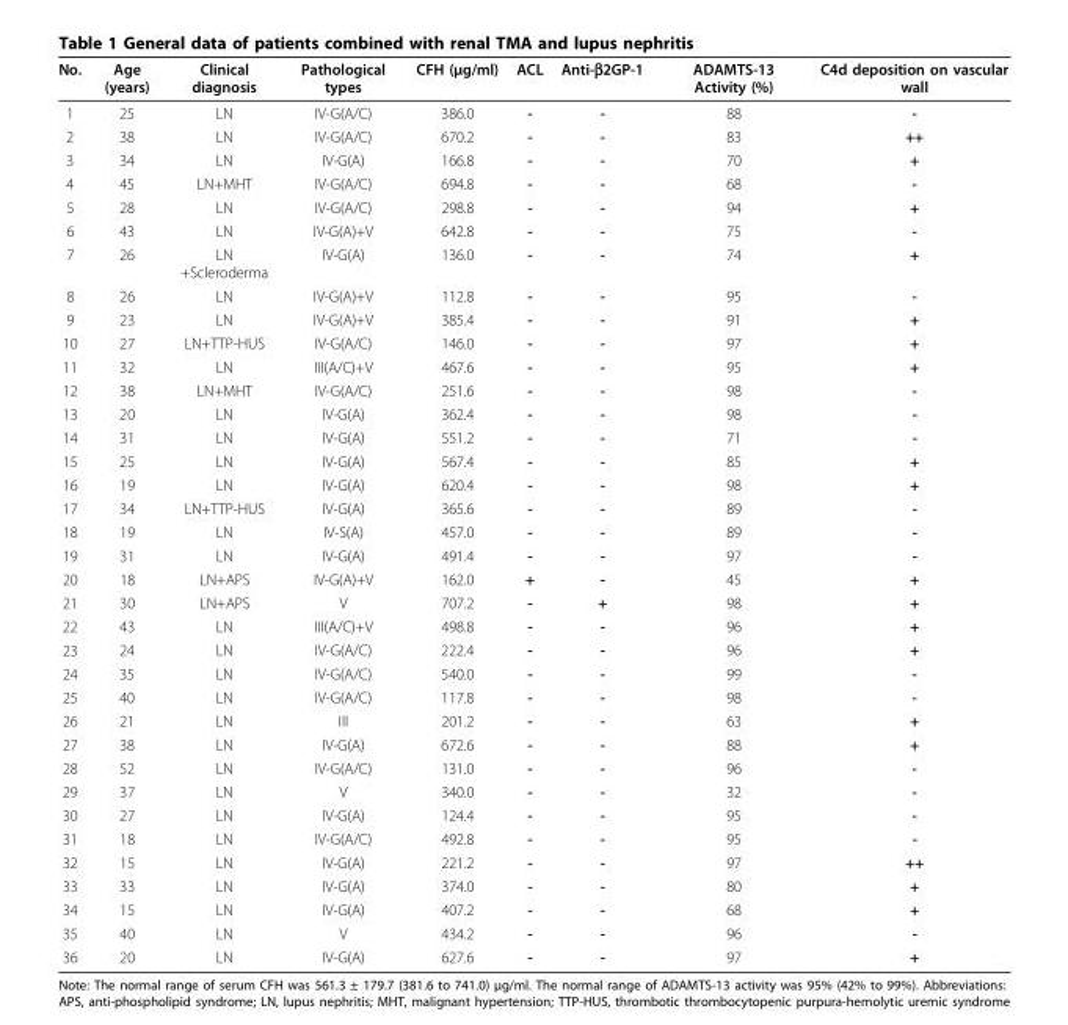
<table><thead><tr><td>No.</td><td>Age (years)</td><td>Clinical diagnosis</td><td>Pathological types</td><td>CFH (μg/ml)</td><td>ACL</td><td>Anti-β2GP-1</td><td>ADAMTS-13 Activity (%)</td><td>C4d deposition on vascular wall</td></tr></thead><tbody><tr><td>1</td><td>25</td><td>LN</td><td>IV-G(A/C)</td><td>386.0</td><td>-</td><td>-</td><td>88</td><td>-</td></tr><tr><td>2</td><td>38</td><td>LN</td><td>IV-G(A/C)</td><td>670.2</td><td>-</td><td>-</td><td>83</td><td>++</td></tr><tr><td>3</td><td>34</td><td>LN</td><td>IV-G(A)</td><td>166.8</td><td>-</td><td>-</td><td>70</td><td>+</td></tr><tr><td>4</td><td>45</td><td>LN+MHT</td><td>IV-G(A/C)</td><td>694.8</td><td>-</td><td>-</td><td>68</td><td>-</td></tr><tr><td>5</td><td>28</td><td>LN</td><td>IV-G(A/C)</td><td>298.8</td><td>-</td><td>-</td><td>94</td><td>+</td></tr><tr><td>6</td><td>43</td><td>LN</td><td>IV-G(A)+V</td><td>642.8</td><td>-</td><td>-</td><td>75</td><td>-</td></tr><tr><td>7</td><td>26</td><td>LN +Scleroderma</td><td>IV-G(A)</td><td>136.0</td><td>-</td><td>-</td><td>74</td><td>+</td></tr><tr><td>8</td><td>26</td><td>LN</td><td>IV-G(A)+V</td><td>112.8</td><td>-</td><td>-</td><td>95</td><td>-</td></tr><tr><td>9</td><td>23</td><td>LN</td><td>IV-G(A)+V</td><td>385.4</td><td>-</td><td>-</td><td>91</td><td>+</td></tr><tr><td>10</td><td>27</td><td>LN+TTP-HUS</td><td>IV-G(A/C)</td><td>146.0</td><td>-</td><td>-</td><td>97</td><td>+</td></tr><tr><td>11</td><td>32</td><td>LN</td><td>III(A/C)+V</td><td>467.6</td><td>-</td><td>-</td><td>95</td><td>+</td></tr><tr><td>12</td><td>38</td><td>LN+MHT</td><td>IV-G(A/C)</td><td>251.6</td><td>-</td><td>-</td><td>98</td><td>-</td></tr><tr><td>13</td><td>20</td><td>LN</td><td>IV-G(A)</td><td>362.4</td><td>-</td><td>-</td><td>98</td><td>-</td></tr><tr><td>14</td><td>31</td><td>LN</td><td>IV-G(A)</td><td>551.2</td><td>-</td><td>-</td><td>71</td><td>-</td></tr><tr><td>15</td><td>25</td><td>LN</td><td>IV-G(A)</td><td>567.4</td><td>-</td><td>-</td><td>85</td><td>+</td></tr><tr><td>16</td><td>19</td><td>LN</td><td>IV-G(A)</td><td>620.4</td><td>-</td><td>-</td><td>98</td><td>+</td></tr><tr><td>17</td><td>34</td><td>LN+TTP-HUS</td><td>IV-G(A)</td><td>365.6</td><td>-</td><td>-</td><td>89</td><td>-</td></tr><tr><td>18</td><td>19</td><td>LN</td><td>IV-S(A)</td><td>457.0</td><td>-</td><td>-</td><td>89</td><td>-</td></tr><tr><td>19</td><td>31</td><td>LN</td><td>IV-G(A)</td><td>491.4</td><td>-</td><td>-</td><td>97</td><td>-</td></tr><tr><td>20</td><td>18</td><td>LN+APS</td><td>IV-G(A)+V</td><td>162.0</td><td>+</td><td>-</td><td>45</td><td>+</td></tr><tr><td>21</td><td>30</td><td>LN+APS</td><td>V</td><td>707.2</td><td>-</td><td>+</td><td>98</td><td>+</td></tr><tr><td>22</td><td>43</td><td>LN</td><td>III(A/C)+V</td><td>498.8</td><td>-</td><td>-</td><td>96</td><td>+</td></tr><tr><td>23</td><td>24</td><td>LN</td><td>IV-G(A/C)</td><td>222.4</td><td>-</td><td>-</td><td>96</td><td>+</td></tr><tr><td>24</td><td>35</td><td>LN</td><td>IV-G(A/C)</td><td>540.0</td><td>-</td><td>-</td><td>99</td><td>-</td></tr><tr><td>25</td><td>40</td><td>LN</td><td>IV-G(A/C)</td><td>117.8</td><td>-</td><td>-</td><td>98</td><td>-</td></tr><tr><td>26</td><td>21</td><td>LN</td><td>III</td><td>201.2</td><td>-</td><td>-</td><td>63</td><td>+</td></tr><tr><td>27</td><td>38</td><td>LN</td><td>IV-G(A)</td><td>672.6</td><td>-</td><td>-</td><td>88</td><td>+</td></tr><tr><td>28</td><td>52</td><td>LN</td><td>IV-G(A/C)</td><td>131.0</td><td>-</td><td>-</td><td>96</td><td>-</td></tr><tr><td>29</td><td>37</td><td>LN</td><td>V</td><td>340.0</td><td>-</td><td>-</td><td>32</td><td>-</td></tr><tr><td>30</td><td>27</td><td>LN</td><td>IV-G(A)</td><td>124.4</td><td>-</td><td>-</td><td>95</td><td>-</td></tr><tr><td>31</td><td>18</td><td>LN</td><td>IV-G(A/C)</td><td>492.8</td><td>-</td><td>-</td><td>95</td><td>-</td></tr><tr><td>32</td><td>15</td><td>LN</td><td>IV-G(A)</td><td>221.2</td><td>-</td><td>-</td><td>97</td><td>++</td></tr><tr><td>33</td><td>33</td><td>LN</td><td>IV-G(A)</td><td>374.0</td><td>-</td><td>-</td><td>80</td><td>+</td></tr><tr><td>34</td><td>15</td><td>LN</td><td>IV-G(A)</td><td>407.2</td><td>-</td><td>-</td><td>68</td><td>+</td></tr><tr><td>35</td><td>40</td><td>LN</td><td>V</td><td>434.2</td><td>-</td><td>-</td><td>96</td><td>-</td></tr><tr><td>36</td><td>20</td><td>LN</td><td>IV-G(A)</td><td>627.6</td><td>-</td><td>-</td><td>97</td><td>+</td></tr></tbody></table>